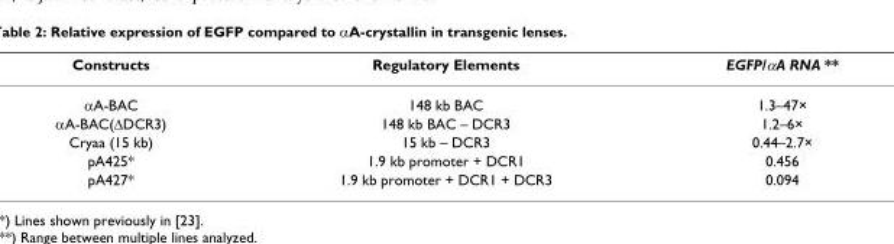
<table><thead><tr><td>Constructs</td><td>Regulatory Elements</td><td>EGFP/αA RNA **</td></tr></thead><tbody><tr><td>αA-BAC</td><td>148 kb BAC</td><td>1.3–47×</td></tr><tr><td>αA-BAC(ΔDCR3)</td><td>148 kb BAC – DCR3</td><td>1.2–6×</td></tr><tr><td>Cryaa (15 kb)</td><td>15 kb – DCR3</td><td>0.44–2.7×</td></tr><tr><td>pA425*</td><td>1.9 kb promoter + DCR1</td><td>0.456</td></tr><tr><td>pA427*</td><td>1.9 kb promoter + DCR1 + DCR3</td><td>0.094</td></tr></tbody></table>